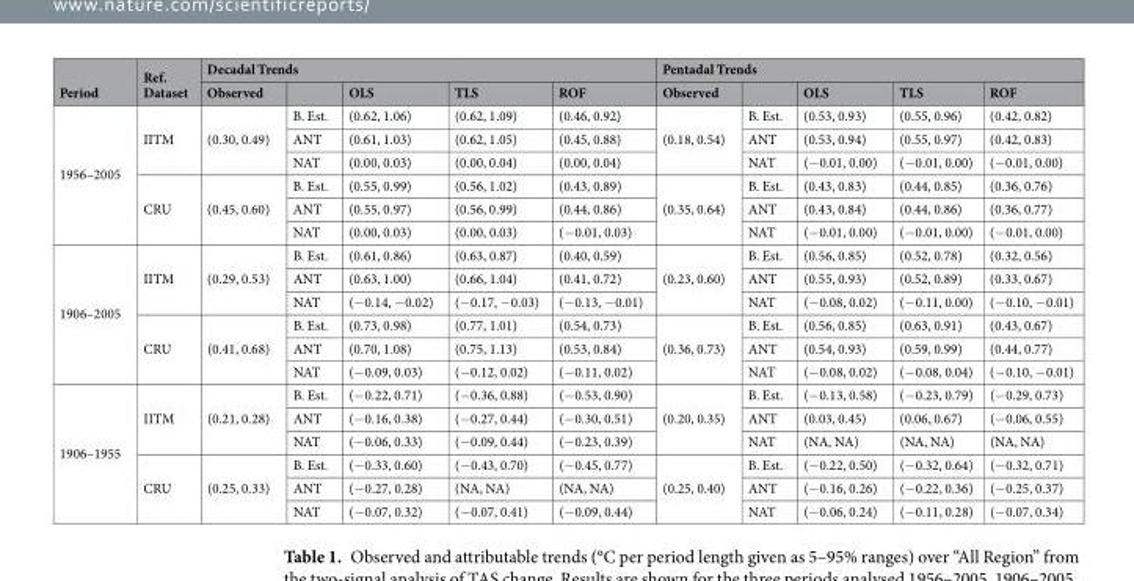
<table><thead><tr><td rowspan="2">Period</td><td rowspan="2">Ref. Dataset</td><td colspan="5">Decadal Trends</td><td colspan="5">Pentadal Trends</td></tr><tr><td>Observed</td><td></td><td>OLS</td><td>TLS</td><td>ROF</td><td>Observed</td><td></td><td>OLS</td><td>TLS</td><td>ROF</td></tr></thead><tbody><tr><td rowspan="6">1956–2005</td><td rowspan="3">IITM</td><td rowspan="3">(0.30, 0.49)</td><td>B. Est.</td><td>(0.62, 1.06)</td><td>(0.62, 1.09)</td><td>(0.46, 0.92)</td><td rowspan="3">(0.18, 0.54)</td><td>B. Est.</td><td>(0.53, 0.93)</td><td>(0.55, 0.96)</td><td>(0.42, 0.82)</td></tr><tr><td>ANT</td><td>(0.61, 1.03)</td><td>(0.62, 1.05)</td><td>(0.45, 0.88)</td><td>ANT</td><td>(0.53, 0.94)</td><td>(0.55, 0.97)</td><td>(0.42, 0.83)</td></tr><tr><td>NAT</td><td>(0.00, 0.03)</td><td>(0.00, 0.04)</td><td>(0.00, 0.04)</td><td>NAT</td><td>(−0.01, 0.00)</td><td>(−0.01, 0.00)</td><td>(−0.01, 0.00)</td></tr><tr><td rowspan="3">CRU</td><td rowspan="3">(0.45, 0.60)</td><td>B. Est.</td><td>(0.55, 0.99)</td><td>(0.56, 1.02)</td><td>(0.43, 0.89)</td><td rowspan="3">(0.35, 0.64)</td><td>B. Est.</td><td>(0.43, 0.83)</td><td>(0.44, 0.85)</td><td>(0.36, 0.76)</td></tr><tr><td>ANT</td><td>(0.55, 0.97)</td><td>(0.56, 0.99)</td><td>(0.44, 0.86)</td><td>ANT</td><td>(0.43, 0.84)</td><td>(0.44, 0.86)</td><td>(0.36, 0.77)</td></tr><tr><td>NAT</td><td>(0.00, 0.03)</td><td>(0.00, 0.03)</td><td>(−0.01, 0.03)</td><td>NAT</td><td>(−0.01, 0.00)</td><td>(−0.01, 0.00)</td><td>(−0.01, 0.00)</td></tr><tr><td rowspan="6">1906–2005</td><td rowspan="3">IITM</td><td rowspan="3">(0.29, 0.53)</td><td>B. Est.</td><td>(0.61, 0.86)</td><td>(0.63, 0.87)</td><td>(0.40, 0.59)</td><td rowspan="3">(0.23, 0.60)</td><td>B. Est.</td><td>(0.56, 0.85)</td><td>(0.52, 0.78)</td><td>(0.32, 0.56)</td></tr><tr><td>ANT</td><td>(0.63, 1.00)</td><td>(0.66, 1.04)</td><td>(0.41, 0.72)</td><td>ANT</td><td>(0.55, 0.93)</td><td>(0.52, 0.89)</td><td>(0.33, 0.67)</td></tr><tr><td>NAT</td><td>(−0.14, −0.02)</td><td>(−0.17, −0.03)</td><td>(−0.13, −0.01)</td><td>NAT</td><td>(−0.08, 0.02)</td><td>(−0.11, 0.00)</td><td>(−0.10, −0.01)</td></tr><tr><td rowspan="3">CRU</td><td rowspan="3">(0.41, 0.68)</td><td>B. Est.</td><td>(0.73, 0.98)</td><td>(0.77, 1.01)</td><td>(0.54, 0.73)</td><td rowspan="3">(0.36, 0.73)</td><td>B. Est.</td><td>(0.56, 0.85)</td><td>(0.63, 0.91)</td><td>(0.43, 0.67)</td></tr><tr><td>ANT</td><td>(0.70, 1.08)</td><td>(0.75, 1.13)</td><td>(0.53, 0.84)</td><td>ANT</td><td>(0.54, 0.93)</td><td>(0.59, 0.99)</td><td>(0.44, 0.77)</td></tr><tr><td>NAT</td><td>(−0.09, 0.03)</td><td>(−0.12, 0.02)</td><td>(−0.11, 0.02)</td><td>NAT</td><td>(−0.08, 0.02)</td><td>(−0.08, 0.04)</td><td>(−0.10, −0.01)</td></tr><tr><td rowspan="6">1906–1955</td><td rowspan="3">IITM</td><td rowspan="3">(0.21, 0.28)</td><td>B. Est.</td><td>(−0.22, 0.71)</td><td>(−0.36, 0.88)</td><td>(−0.53, 0.90)</td><td rowspan="3">(0.20, 0.35)</td><td>B. Est.</td><td>(−0.13, 0.58)</td><td>(−0.23, 0.79)</td><td>(−0.29, 0.73)</td></tr><tr><td>ANT</td><td>(−0.16, 0.38)</td><td>(−0.27, 0.44)</td><td>(−0.30, 0.51)</td><td>ANT</td><td>(0.03, 0.45)</td><td>(0.06, 0.67)</td><td>(−0.06, 0.55)</td></tr><tr><td>NAT</td><td>(−0.06, 0.33)</td><td>(−0.09, 0.44)</td><td>(−0.23, 0.39)</td><td>NAT</td><td>(NA, NA)</td><td>(NA, NA)</td><td>(NA, NA)</td></tr><tr><td rowspan="3">CRU</td><td rowspan="3">(0.25, 0.33)</td><td>B. Est.</td><td>(−0.33, 0.60)</td><td>(−0.43, 0.70)</td><td>(−0.45, 0.77)</td><td rowspan="3">(0.25, 0.40)</td><td>B. Est.</td><td>(−0.22, 0.50)</td><td>(−0.32, 0.64)</td><td>(−0.32, 0.71)</td></tr><tr><td>ANT</td><td>(−0.27, 0.28)</td><td>(NA, NA)</td><td>(NA, NA)</td><td>ANT</td><td>(−0.16, 0.26)</td><td>(−0.22, 0.36)</td><td>(−0.25, 0.37)</td></tr><tr><td>NAT</td><td>(−0.07, 0.32)</td><td>(−0.07, 0.41)</td><td>(−0.09, 0.44)</td><td>NAT</td><td>(−0.06, 0.24)</td><td>(−0.11, 0.28)</td><td>(−0.07, 0.34)</td></tr></tbody></table>